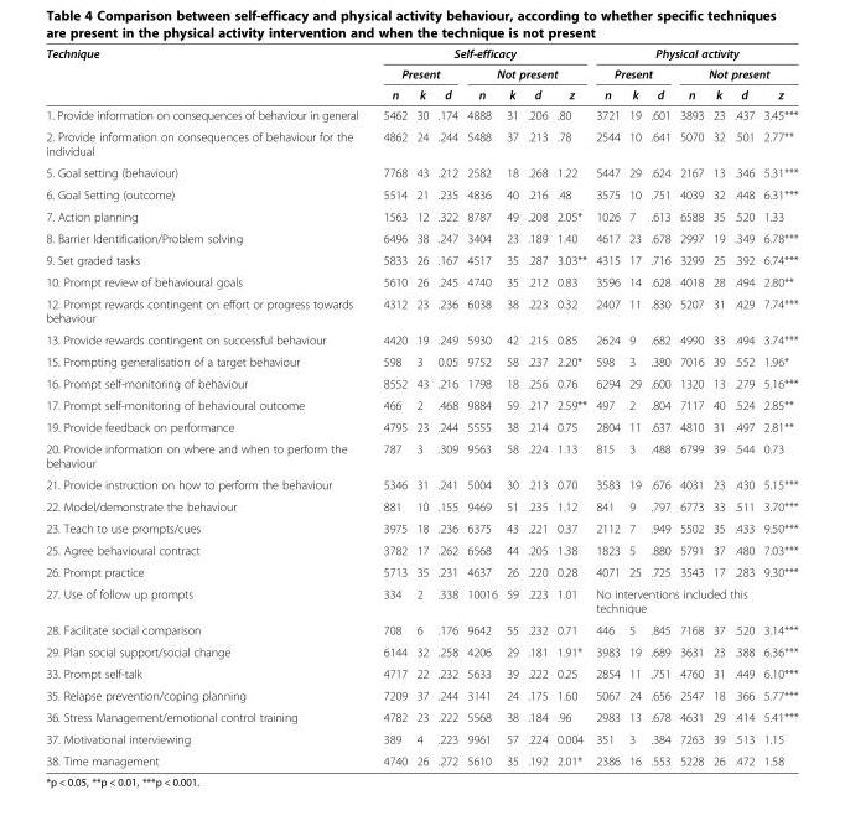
<table><thead><tr><td rowspan="3">Technique</td><td colspan="7">Self-efficacy</td><td colspan="7">Physical activity</td></tr><tr><td colspan="3">Present</td><td colspan="4">Not present</td><td colspan="3">Present</td><td colspan="4">Not present</td></tr><tr><td>n</td><td>k</td><td>d</td><td>n</td><td>k</td><td>d</td><td>z</td><td>n</td><td>k</td><td>d</td><td>n</td><td>k</td><td>d</td><td>z</td></tr></thead><tbody><tr><td>1. Provide information on consequences of behaviour in general</td><td>5462</td><td>30</td><td>.174</td><td>4888</td><td>31</td><td>.206</td><td>.80</td><td>3721</td><td>19</td><td>.601</td><td>3893</td><td>23</td><td>.437</td><td>3.45***</td></tr><tr><td>2. Provide information on consequences of behaviour for the individual</td><td>4862</td><td>24</td><td>.244</td><td>5488</td><td>37</td><td>.213</td><td>.78</td><td>2544</td><td>10</td><td>.641</td><td>5070</td><td>32</td><td>.501</td><td>2.77**</td></tr><tr><td>5. Goal setting (behaviour)</td><td>7768</td><td>43</td><td>.212</td><td>2582</td><td>18</td><td>.268</td><td>1.22</td><td>5447</td><td>29</td><td>.624</td><td>2167</td><td>13</td><td>.346</td><td>5.31***</td></tr><tr><td>6. Goal Setting (outcome)</td><td>5514</td><td>21</td><td>.235</td><td>4836</td><td>40</td><td>.216</td><td>.48</td><td>3575</td><td>10</td><td>.751</td><td>4039</td><td>32</td><td>.448</td><td>6.31***</td></tr><tr><td>7. Action planning</td><td>1563</td><td>12</td><td>.322</td><td>8787</td><td>49</td><td>.208</td><td>2.05*</td><td>1026</td><td>7</td><td>.613</td><td>6588</td><td>35</td><td>.520</td><td>1.33</td></tr><tr><td>8. Barrier Identification/Problem solving</td><td>6496</td><td>38</td><td>.247</td><td>3404</td><td>23</td><td>.189</td><td>1.40</td><td>4617</td><td>23</td><td>.678</td><td>2997</td><td>19</td><td>.349</td><td>6.78***</td></tr><tr><td>9. Set graded tasks</td><td>5833</td><td>26</td><td>.167</td><td>4517</td><td>35</td><td>.287</td><td>3.03**</td><td>4315</td><td>17</td><td>.716</td><td>3299</td><td>25</td><td>.392</td><td>6.74***</td></tr><tr><td>10. Prompt review of behavioural goals</td><td>5610</td><td>26</td><td>.245</td><td>4740</td><td>35</td><td>.212</td><td>0.83</td><td>3596</td><td>14</td><td>.628</td><td>4018</td><td>28</td><td>.494</td><td>2.80**</td></tr><tr><td>12. Prompt rewards contingent on effort or progress towards behaviour</td><td>4312</td><td>23</td><td>.236</td><td>6038</td><td>38</td><td>.223</td><td>0.32</td><td>2407</td><td>11</td><td>.830</td><td>5207</td><td>31</td><td>.429</td><td>7.74***</td></tr><tr><td>13. Provide rewards contingent on successful behaviour</td><td>4420</td><td>19</td><td>.249</td><td>5930</td><td>42</td><td>.215</td><td>0.85</td><td>2624</td><td>9</td><td>.682</td><td>4990</td><td>33</td><td>.494</td><td>3.74***</td></tr><tr><td>15. Prompting generalisation of a target behaviour</td><td>598</td><td>3</td><td>0.05</td><td>9752</td><td>58</td><td>.237</td><td>2.20*</td><td>598</td><td>3</td><td>.380</td><td>7016</td><td>39</td><td>.552</td><td>1.96*</td></tr><tr><td>16. Prompt self-monitoring of behaviour</td><td>8552</td><td>43</td><td>.216</td><td>1798</td><td>18</td><td>.256</td><td>0.76</td><td>6294</td><td>29</td><td>.600</td><td>1320</td><td>13</td><td>.279</td><td>5.16***</td></tr><tr><td>17. Prompt self-monitoring of behavioural outcome</td><td>466</td><td>2</td><td>.468</td><td>9884</td><td>59</td><td>.217</td><td>2.59**</td><td>497</td><td>2</td><td>.804</td><td>7117</td><td>40</td><td>.524</td><td>2.85**</td></tr><tr><td>19. Provide feedback on performance</td><td>4795</td><td>23</td><td>.244</td><td>5555</td><td>38</td><td>.214</td><td>0.75</td><td>2804</td><td>11</td><td>.637</td><td>4810</td><td>31</td><td>.497</td><td>2.81**</td></tr><tr><td>20. Provide information on where and when to perform the behaviour</td><td>787</td><td>3</td><td>.309</td><td>9563</td><td>58</td><td>.224</td><td>1.13</td><td>815</td><td>3</td><td>.488</td><td>6799</td><td>39</td><td>.544</td><td>0.73</td></tr><tr><td>21. Provide instruction on how to perform the behaviour</td><td>5346</td><td>31</td><td>.241</td><td>5004</td><td>30</td><td>.213</td><td>0.70</td><td>3583</td><td>19</td><td>.676</td><td>4031</td><td>23</td><td>.430</td><td>5.15***</td></tr><tr><td>22. Model/demonstrate the behaviour</td><td>881</td><td>10</td><td>.155</td><td>9469</td><td>51</td><td>.235</td><td>1.12</td><td>841</td><td>9</td><td>.797</td><td>6773</td><td>33</td><td>.511</td><td>3.70***</td></tr><tr><td>23. Teach to use prompts/cues</td><td>3975</td><td>18</td><td>.236</td><td>6375</td><td>43</td><td>.221</td><td>0.37</td><td>2112</td><td>7</td><td>.949</td><td>5502</td><td>35</td><td>.433</td><td>9.50***</td></tr><tr><td>25. Agree behavioural contract</td><td>3782</td><td>17</td><td>.262</td><td>6568</td><td>44</td><td>.205</td><td>1.38</td><td>1823</td><td>5</td><td>.880</td><td>5791</td><td>37</td><td>.480</td><td>7.03***</td></tr><tr><td>26. Prompt practice</td><td>5713</td><td>35</td><td>.231</td><td>4637</td><td>26</td><td>.220</td><td>0.28</td><td>4071</td><td>25</td><td>.725</td><td>3543</td><td>17</td><td>.283</td><td>9.30***</td></tr><tr><td>27. Use of follow up prompts</td><td>334</td><td>2</td><td>.338</td><td>10016</td><td>59</td><td>.223</td><td>1.01</td><td colspan="7">No interventions included this technique</td></tr><tr><td>28. Facilitate social comparison</td><td>708</td><td>6</td><td>.176</td><td>9642</td><td>55</td><td>.232</td><td>0.71</td><td>446</td><td>5</td><td>.845</td><td>7168</td><td>37</td><td>.520</td><td>3.14***</td></tr><tr><td>29. Plan social support/social change</td><td>6144</td><td>32</td><td>.258</td><td>4206</td><td>29</td><td>.181</td><td>1.91*</td><td>3983</td><td>19</td><td>.689</td><td>3631</td><td>23</td><td>.388</td><td>6.36***</td></tr><tr><td>33. Prompt self-talk</td><td>4717</td><td>22</td><td>.232</td><td>5633</td><td>39</td><td>.222</td><td>0.25</td><td>2854</td><td>11</td><td>.751</td><td>4760</td><td>31</td><td>.449</td><td>6.10***</td></tr><tr><td>35. Relapse prevention/coping planning</td><td>7209</td><td>37</td><td>.244</td><td>3141</td><td>24</td><td>.175</td><td>1.60</td><td>5067</td><td>24</td><td>.656</td><td>2547</td><td>18</td><td>.366</td><td>5.77***</td></tr><tr><td>36. Stress Management/emotional control training</td><td>4782</td><td>23</td><td>.222</td><td>5568</td><td>38</td><td>.184</td><td>.96</td><td>2983</td><td>13</td><td>.678</td><td>4631</td><td>29</td><td>.414</td><td>5.41***</td></tr><tr><td>37. Motivational interviewing</td><td>389</td><td>4</td><td>.223</td><td>9961</td><td>57</td><td>.224</td><td>0.004</td><td>351</td><td>3</td><td>.384</td><td>7263</td><td>39</td><td>.513</td><td>1.15</td></tr><tr><td>38. Time management</td><td>4740</td><td>26</td><td>.272</td><td>5610</td><td>35</td><td>.192</td><td>2.01*</td><td>2386</td><td>16</td><td>.553</td><td>5228</td><td>26</td><td>.472</td><td>1.58</td></tr></tbody></table>